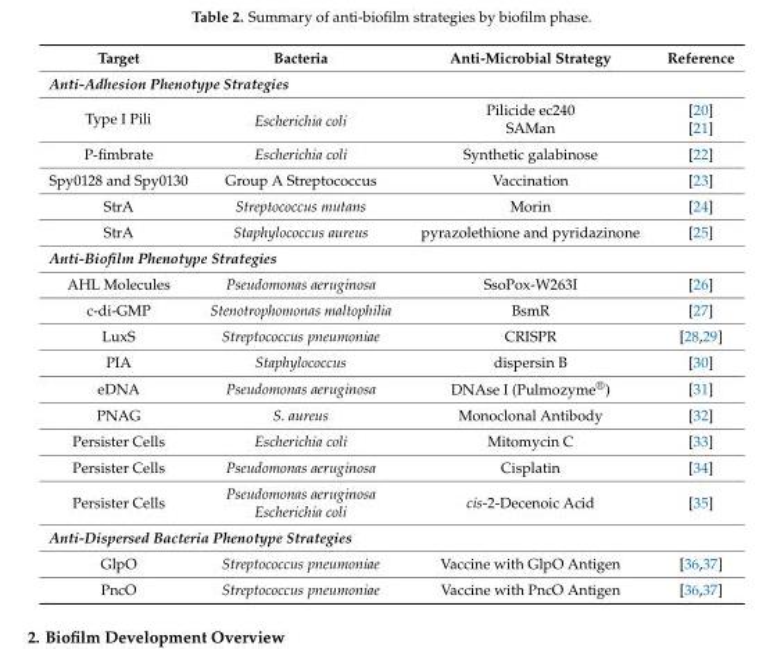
<table><thead><tr><td>Target</td><td>Bacteria</td><td>Anti-Microbial Strategy</td><td>Reference</td></tr></thead><tbody><tr><td colspan="4">Anti-Adhesion Phenotype Strategies</td></tr><tr><td rowspan="2">Type I Pili</td><td rowspan="2">Escherichia coli</td><td>Pilicide ec240</td><td>[20]</td></tr><tr><td>SAMan</td><td>[21]</td></tr><tr><td>P-fimbrate</td><td>Escherichia coli</td><td>Synthetic galabinose</td><td>[22]</td></tr><tr><td>Spy0128 and Spy0130</td><td>Group A Streptococcus</td><td>Vaccination</td><td>[23]</td></tr><tr><td>StrA</td><td>Streptococcus mutans</td><td>Morin</td><td>[24]</td></tr><tr><td>StrA</td><td>Staphylococcus aureus</td><td>pyrazolethione and pyridazinone</td><td>[25]</td></tr><tr><td colspan="4">Anti-Biofilm Phenotype Strategies</td></tr><tr><td>AHL Molecules</td><td>Pseudomonas aeruginosa</td><td>SsoPox-W263I</td><td>[26]</td></tr><tr><td>c-di-GMP</td><td>Stenotrophomonas maltophilia</td><td>BsmR</td><td>[27]</td></tr><tr><td>LuxS</td><td>Streptococcus pneumoniae</td><td>CRISPR</td><td>[28,29]</td></tr><tr><td>PIA</td><td>Staphylococcus</td><td>dispersin B</td><td>[30]</td></tr><tr><td>eDNA</td><td>Pseudomonas aeruginosa</td><td>DNAse I (Pulmozyme<sup>®</sup>)</td><td>[31]</td></tr><tr><td>PNAG</td><td>S. aureus</td><td>Monoclonal Antibody</td><td>[32]</td></tr><tr><td>Persister Cells</td><td>Escherichia coli</td><td>Mitomycin C</td><td>[33]</td></tr><tr><td>Persister Cells</td><td>Pseudomonas aeruginosa</td><td>Cisplatin</td><td>[34]</td></tr><tr><td>Persister Cells</td><td>Pseudomonas aeruginosa Escherichia coli</td><td>cis-2-Decenoic Acid</td><td>[35]</td></tr><tr><td colspan="4">Anti-Dispersed Bacteria Phenotype Strategies</td></tr><tr><td>GlpO</td><td>Streptococcus pneumoniae</td><td>Vaccine with GlpO Antigen</td><td>[36,37]</td></tr><tr><td>PncO</td><td>Streptococcus pneumoniae</td><td>Vaccine with PncO Antigen</td><td>[36,37]</td></tr></tbody></table>